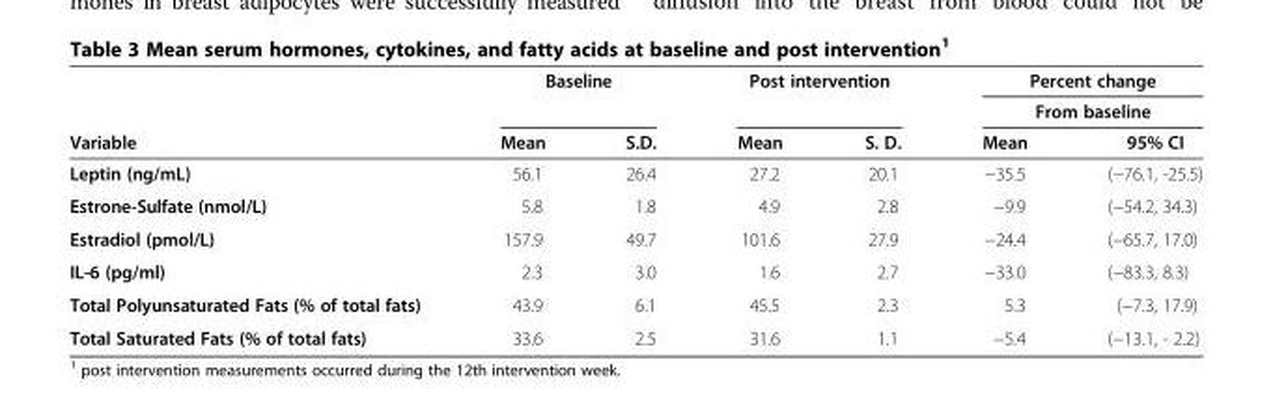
<table><thead><tr><td rowspan="3">Variable</td><td colspan="2">Baseline</td><td colspan="2">Post intervention</td><td rowspan="2" colspan="2">Percent change From baseline</td></tr><tr><td rowspan="2">Mean</td><td rowspan="2">S.D.</td><td rowspan="2">Mean</td><td rowspan="2">S. D.</td></tr><tr><td>Mean</td><td>95% CI</td></tr></thead><tbody><tr><td>Leptin (ng/mL)</td><td>56.1</td><td>26.4</td><td>27.2</td><td>20.1</td><td>−35.5</td><td>(−76.1, -25.5)</td></tr><tr><td>Estrone-Sulfate (nmol/L)</td><td>5.8</td><td>1.8</td><td>4.9</td><td>2.8</td><td>−9.9</td><td>(−54.2, 34.3)</td></tr><tr><td>Estradiol (pmol/L)</td><td>157.9</td><td>49.7</td><td>101.6</td><td>27.9</td><td>−24.4</td><td>(−65.7, 17.0)</td></tr><tr><td>IL-6 (pg/ml)</td><td>2.3</td><td>3.0</td><td>1.6</td><td>2.7</td><td>−33.0</td><td>(−83.3, 8.3)</td></tr><tr><td>Total Polyunsaturated Fats (% of total fats)</td><td>43.9</td><td>6.1</td><td>45.5</td><td>2.3</td><td>5.3</td><td>(−7.3, 17.9)</td></tr><tr><td>Total Saturated Fats (% of total fats)</td><td>33.6</td><td>2.5</td><td>31.6</td><td>1.1</td><td>−5.4</td><td>(−13.1, - 2.2)</td></tr></tbody></table>